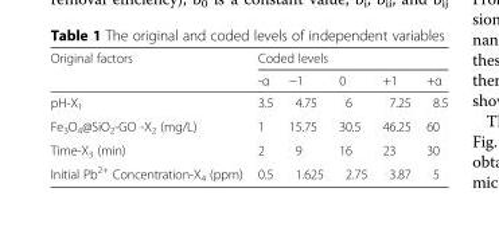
<table><thead><tr><td rowspan="2">Original factors</td><td colspan="5">Coded levels</td></tr><tr><td>-α</td><td>−1</td><td>0</td><td>+1</td><td>+α</td></tr></thead><tbody><tr><td>pH-X<sub>1</sub></td><td>3.5</td><td>4.75</td><td>6</td><td>7.25</td><td>8.5</td></tr><tr><td>Fe<sub>3</sub>O<sub>4</sub>@SiO<sub>2</sub>-GO -X<sub>2</sub> (mg/L)</td><td>1</td><td>15.75</td><td>30.5</td><td>46.25</td><td>60</td></tr><tr><td>Time-X<sub>3</sub> (min)</td><td>2</td><td>9</td><td>16</td><td>23</td><td>30</td></tr><tr><td>Initial Pb<sup>2+</sup> Concentration-X<sub>4</sub> (ppm)</td><td>0.5</td><td>1.625</td><td>2.75</td><td>3.87</td><td>5</td></tr></tbody></table>